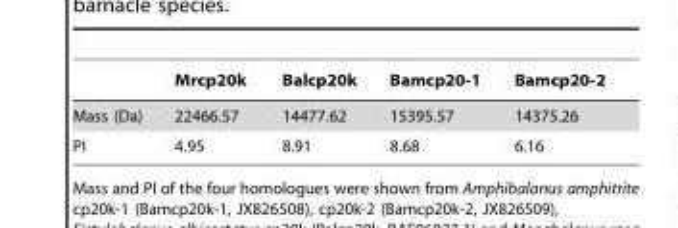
<table><thead><tr><td></td><td>Mrcp20k</td><td>Balcp20k</td><td>Bamcp20-1</td><td>Bamcp20-2</td></tr></thead><tbody><tr><td>Mass (Da)</td><td>22466.57</td><td>14477.62</td><td>15395.57</td><td>14375.26</td></tr><tr><td>PI</td><td>4.95</td><td>8.91</td><td>8.68</td><td>6.16</td></tr></tbody></table>